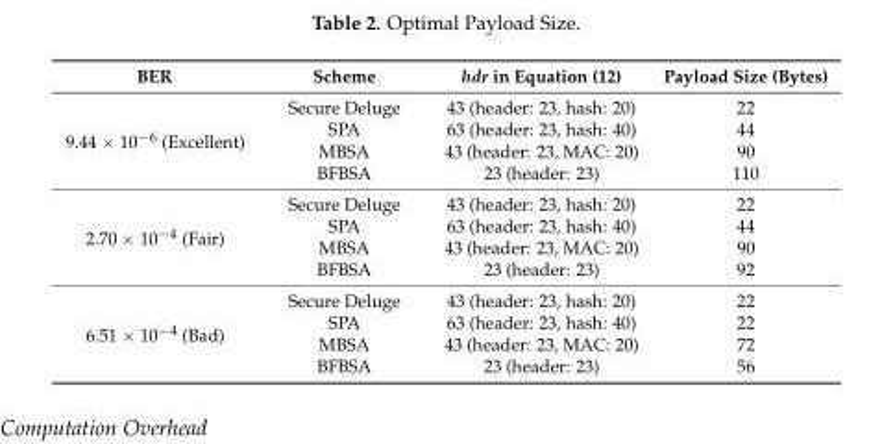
<table><thead><tr><td>BER</td><td>Scheme</td><td>hdr in Equation (12)</td><td>Payload Size (Bytes)</td></tr></thead><tbody><tr><td rowspan="4">9.44 ˆ 10´6 (Excellent)</td><td>Secure Deluge</td><td>43 (header: 23, hash: 20)</td><td>22</td></tr><tr><td>SPA</td><td>63 (header: 23, hash: 40)</td><td>44</td></tr><tr><td>MBSA</td><td>43 (header: 23, MAC: 20)</td><td>90</td></tr><tr><td>BFBSA</td><td>23 (header: 23)</td><td>110</td></tr><tr><td rowspan="4">2.70 ˆ 10´4 (Fair)</td><td>Secure Deluge</td><td>43 (header: 23, hash: 20)</td><td>22</td></tr><tr><td>SPA</td><td>63 (header: 23, hash: 40)</td><td>44</td></tr><tr><td>MBSA</td><td>43 (header: 23, MAC: 20)</td><td>90</td></tr><tr><td>BFBSA</td><td>23 (header: 23)</td><td>92</td></tr><tr><td rowspan="4">6.51 ˆ 10´4 (Bad)</td><td>Secure Deluge</td><td>43 (header: 23, hash: 20)</td><td>22</td></tr><tr><td>SPA</td><td>63 (header: 23, hash: 40)</td><td>22</td></tr><tr><td>MBSA</td><td>43 (header: 23, MAC: 20)</td><td>72</td></tr><tr><td>BFBSA</td><td>23 (header: 23)</td><td>56</td></tr></tbody></table>